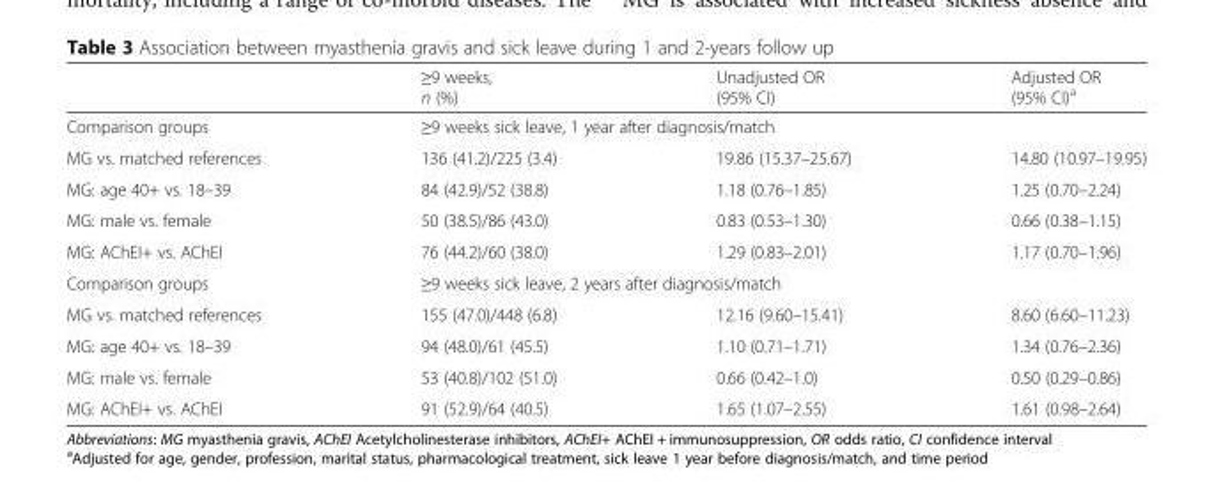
<table><thead><tr><td></td><td>≥9 weeks, n (%)</td><td>Unadjusted OR (95% CI)</td><td>Adjusted OR (95% CI)<sup>a</sup></td></tr></thead><tbody><tr><td>Comparison groups</td><td colspan="3">≥9 weeks sick leave, 1 year after diagnosis/match</td></tr><tr><td>MG vs. matched references</td><td>136 (41.2)/225 (3.4)</td><td>19.86 (15.37–25.67)</td><td>14.80 (10.97–19.95)</td></tr><tr><td>MG: age 40+ vs. 18–39</td><td>84 (42.9)/52 (38.8)</td><td>1.18 (0.76–1.85)</td><td>1.25 (0.70–2.24)</td></tr><tr><td>MG: male vs. female</td><td>50 (38.5)/86 (43.0)</td><td>0.83 (0.53–1.30)</td><td>0.66 (0.38–1.15)</td></tr><tr><td>MG: AChEI+ vs. AChEI</td><td>76 (44.2)/60 (38.0)</td><td>1.29 (0.83–2.01)</td><td>1.17 (0.70–1.96)</td></tr><tr><td>Comparison groups</td><td colspan="3">≥9 weeks sick leave, 2 years after diagnosis/match</td></tr><tr><td>MG vs. matched references</td><td>155 (47.0)/448 (6.8)</td><td>12.16 (9.60–15.41)</td><td>8.60 (6.60–11.23)</td></tr><tr><td>MG: age 40+ vs. 18–39</td><td>94 (48.0)/61 (45.5)</td><td>1.10 (0.71–1.71)</td><td>1.34 (0.76–2.36)</td></tr><tr><td>MG: male vs. female</td><td>53 (40.8)/102 (51.0)</td><td>0.66 (0.42–1.0)</td><td>0.50 (0.29–0.86)</td></tr><tr><td>MG: AChEI+ vs. AChEI</td><td>91 (52.9)/64 (40.5)</td><td>1.65 (1.07–2.55)</td><td>1.61 (0.98–2.64)</td></tr></tbody></table>